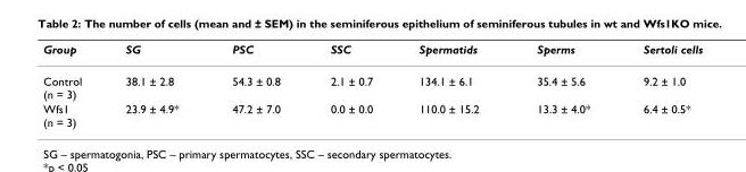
<table><thead><tr><td>Group</td><td>SG</td><td>PSC</td><td>SSC</td><td>Spermatids</td><td>Sperms</td><td>Sertoli cells</td></tr></thead><tbody><tr><td>Control (n = 3)</td><td>38.1 ± 2.8</td><td>54.3 ± 0.8</td><td>2.1 ± 0.7</td><td>134.1 ± 6.1</td><td>35.4 ± 5.6</td><td>9.2 ± 1.0</td></tr><tr><td>Wfs1 (n = 3)</td><td>23.9 ± 4.9*</td><td>47.2 ± 7.0</td><td>0.0 ± 0.0</td><td>110.0 ± 15.2</td><td>13.3 ± 4.0*</td><td>6.4 ± 0.5*</td></tr></tbody></table>